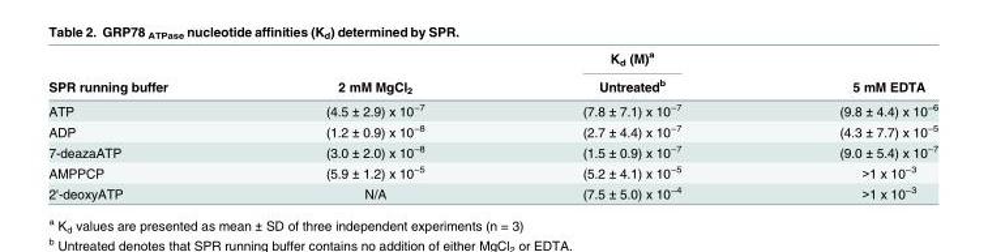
<table><thead><tr><td rowspan="2">SPR running buffer</td><td rowspan="2">2 mM MgCl<sub>2</sub></td><td rowspan="2">K<sub>d</sub> (M)<sup>a</sup> Untreated<sup>b</sup></td><td rowspan="2">5 mM EDTA</td></tr><tr></tr></thead><tbody><tr><td>ATP</td><td>(4.5 ± 2.9) x 10<sup>−7</sup></td><td>(7.8 ± 7.1) x 10<sup>−7</sup></td><td>(9.8 ± 4.4) x 10<sup>−6</sup></td></tr><tr><td>ADP</td><td>(1.2 ± 0.9) x 10<sup>−8</sup></td><td>(2.7 ± 4.4) x 10<sup>−7</sup></td><td>(4.3 ± 7.7) x 10<sup>−5</sup></td></tr><tr><td>7-deazaATP</td><td>(3.0 ± 2.0) x 10<sup>−8</sup></td><td>(1.5 ± 0.9) x 10<sup>−7</sup></td><td>(9.0 ± 5.4) x 10<sup>−7</sup></td></tr><tr><td>AMPPCP</td><td>(5.9 ± 1.2) x 10<sup>−5</sup></td><td>(5.2 ± 4.1) x 10<sup>−5</sup></td><td>&gt;1 x 10<sup>−3</sup></td></tr><tr><td>2&#x27;-deoxyATP</td><td>N/A</td><td>(7.5 ± 5.0) x 10<sup>−4</sup></td><td>&gt;1 x 10<sup>−3</sup></td></tr></tbody></table>